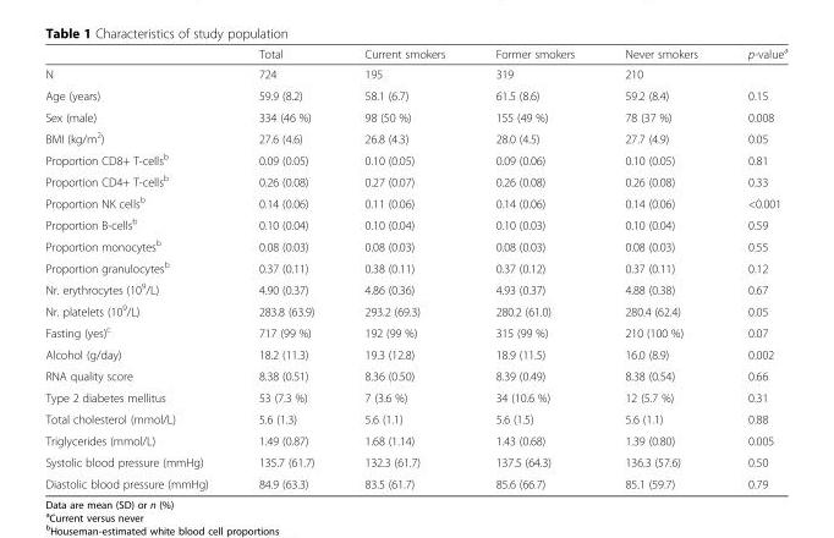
<table><thead><tr><td></td><td>Total</td><td>Current smokers</td><td>Former smokers</td><td>Never smokers</td><td>p-value<sup>a</sup></td></tr></thead><tbody><tr><td>N</td><td>724</td><td>195</td><td>319</td><td>210</td><td></td></tr><tr><td>Age (years)</td><td>59.9 (8.2)</td><td>58.1 (6.7)</td><td>61.5 (8.6)</td><td>59.2 (8.4)</td><td>0.15</td></tr><tr><td>Sex (male)</td><td>334 (46 %)</td><td>98 (50 %)</td><td>155 (49 %)</td><td>78 (37 %)</td><td>0.008</td></tr><tr><td>BMI (kg/m<sup>2</sup>)</td><td>27.6 (4.6)</td><td>26.8 (4.3)</td><td>28.0 (4.5)</td><td>27.7 (4.9)</td><td>0.05</td></tr><tr><td>Proportion CD8+ T-cells<sup>b</sup></td><td>0.09 (0.05)</td><td>0.10 (0.05)</td><td>0.09 (0.06)</td><td>0.10 (0.05)</td><td>0.81</td></tr><tr><td>Proportion CD4+ T-cells<sup>b</sup></td><td>0.26 (0.08)</td><td>0.27 (0.07)</td><td>0.26 (0.08)</td><td>0.26 (0.08)</td><td>0.33</td></tr><tr><td>Proportion NK cells<sup>b</sup></td><td>0.14 (0.06)</td><td>0.11 (0.06)</td><td>0.14 (0.06)</td><td>0.14 (0.06)</td><td>&lt;0.001</td></tr><tr><td>Proportion B-cells<sup>b</sup></td><td>0.10 (0.04)</td><td>0.10 (0.04)</td><td>0.10 (0.03)</td><td>0.10 (0.04)</td><td>0.59</td></tr><tr><td>Proportion monocytes<sup>b</sup></td><td>0.08 (0.03)</td><td>0.08 (0.03)</td><td>0.08 (0.03)</td><td>0.08 (0.03)</td><td>0.55</td></tr><tr><td>Proportion granulocytes<sup>b</sup></td><td>0.37 (0.11)</td><td>0.38 (0.11)</td><td>0.37 (0.12)</td><td>0.37 (0.11)</td><td>0.12</td></tr><tr><td>Nr. erythrocytes (10<sup>9</sup>/L)</td><td>4.90 (0.37)</td><td>4.86 (0.36)</td><td>4.93 (0.37)</td><td>4.88 (0.38)</td><td>0.67</td></tr><tr><td>Nr. platelets (10<sup>9</sup>/L)</td><td>283.8 (63.9)</td><td>293.2 (69.3)</td><td>280.2 (61.0)</td><td>280.4 (62.4)</td><td>0.05</td></tr><tr><td>Fasting (yes)<sup>c</sup></td><td>717 (99 %)</td><td>192 (99 %)</td><td>315 (99 %)</td><td>210 (100 %)</td><td>0.07</td></tr><tr><td>Alcohol (g/day)</td><td>18.2 (11.3)</td><td>19.3 (12.8)</td><td>18.9 (11.5)</td><td>16.0 (8.9)</td><td>0.002</td></tr><tr><td>RNA quality score</td><td>8.38 (0.51)</td><td>8.36 (0.50)</td><td>8.39 (0.49)</td><td>8.38 (0.54)</td><td>0.66</td></tr><tr><td>Type 2 diabetes mellitus</td><td>53 (7.3 %)</td><td>7 (3.6 %)</td><td>34 (10.6 %)</td><td>12 (5.7 %)</td><td>0.31</td></tr><tr><td>Total cholesterol (mmol/L)</td><td>5.6 (1.3)</td><td>5.6 (1.1)</td><td>5.6 (1.5)</td><td>5.6 (1.1)</td><td>0.88</td></tr><tr><td>Triglycerides (mmol/L)</td><td>1.49 (0.87)</td><td>1.68 (1.14)</td><td>1.43 (0.68)</td><td>1.39 (0.80)</td><td>0.005</td></tr><tr><td>Systolic blood pressure (mmHg)</td><td>135.7 (61.7)</td><td>132.3 (61.7)</td><td>137.5 (64.3)</td><td>136.3 (57.6)</td><td>0.50</td></tr><tr><td>Diastolic blood pressure (mmHg)</td><td>84.9 (63.3)</td><td>83.5 (61.7)</td><td>85.6 (66.7)</td><td>85.1 (59.7)</td><td>0.79</td></tr></tbody></table>